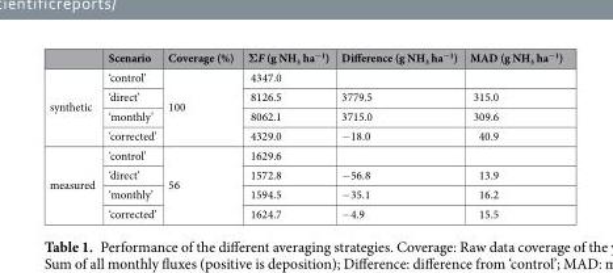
<table><thead><tr><td></td><td>Scenario</td><td>Coverage (%)</td><td>ΣF (g NH<sub>3</sub> ha<sup>−1</sup>)</td><td>Difference (g NH<sub>3</sub> ha<sup>−1</sup>)</td><td>MAD (g NH<sub>3</sub> ha<sup>−1</sup>)</td></tr></thead><tbody><tr><td rowspan="4">synthetic</td><td>‘control’</td><td rowspan="4">100</td><td>4347.0</td><td></td><td></td></tr><tr><td>‘direct’</td><td>8126.5</td><td>3779.5</td><td>315.0</td></tr><tr><td>‘monthly’</td><td>8062.1</td><td>3715.0</td><td>309.6</td></tr><tr><td>‘corrected’</td><td>4329.0</td><td>−18.0</td><td>40.9</td></tr><tr><td rowspan="4">measured</td><td>‘control’</td><td rowspan="4">56</td><td>1629.6</td><td></td><td></td></tr><tr><td>‘direct’</td><td>1572.8</td><td>−56.8</td><td>13.9</td></tr><tr><td>‘monthly’</td><td>1594.5</td><td>−35.1</td><td>16.2</td></tr><tr><td>‘corrected’</td><td>1624.7</td><td>−4.9</td><td>15.5</td></tr></tbody></table>